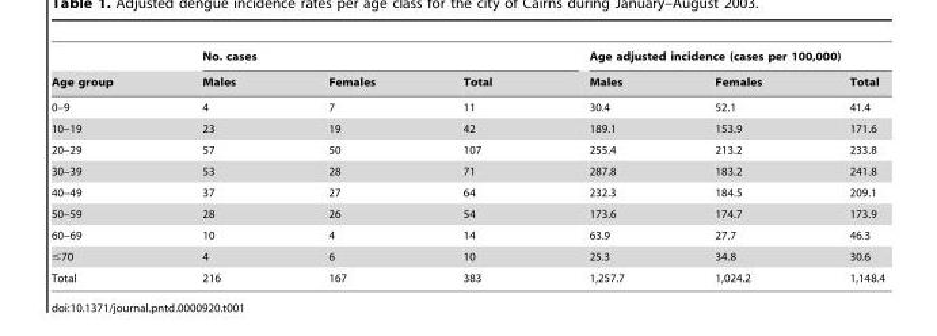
<table><thead><tr><td rowspan="2">Age group</td><td colspan="3">No. cases</td><td colspan="3">Age adjusted incidence (cases per 100,000)</td></tr><tr><td>Males</td><td>Females</td><td>Total</td><td>Males</td><td>Females</td><td>Total</td></tr></thead><tbody><tr><td>0–9</td><td>4</td><td>7</td><td>11</td><td>30.4</td><td>52.1</td><td>41.4</td></tr><tr><td>10–19</td><td>23</td><td>19</td><td>42</td><td>189.1</td><td>153.9</td><td>171.6</td></tr><tr><td>20–29</td><td>57</td><td>50</td><td>107</td><td>255.4</td><td>213.2</td><td>233.8</td></tr><tr><td>30–39</td><td>53</td><td>28</td><td>71</td><td>287.8</td><td>183.2</td><td>241.8</td></tr><tr><td>40–49</td><td>37</td><td>27</td><td>64</td><td>232.3</td><td>184.5</td><td>209.1</td></tr><tr><td>50–59</td><td>28</td><td>26</td><td>54</td><td>173.6</td><td>174.7</td><td>173.9</td></tr><tr><td>60–69</td><td>10</td><td>4</td><td>14</td><td>63.9</td><td>27.7</td><td>46.3</td></tr><tr><td>≤70</td><td>4</td><td>6</td><td>10</td><td>25.3</td><td>34.8</td><td>30.6</td></tr><tr><td>Total</td><td>216</td><td>167</td><td>383</td><td>1,257.7</td><td>1,024.2</td><td>1,148.4</td></tr></tbody></table>